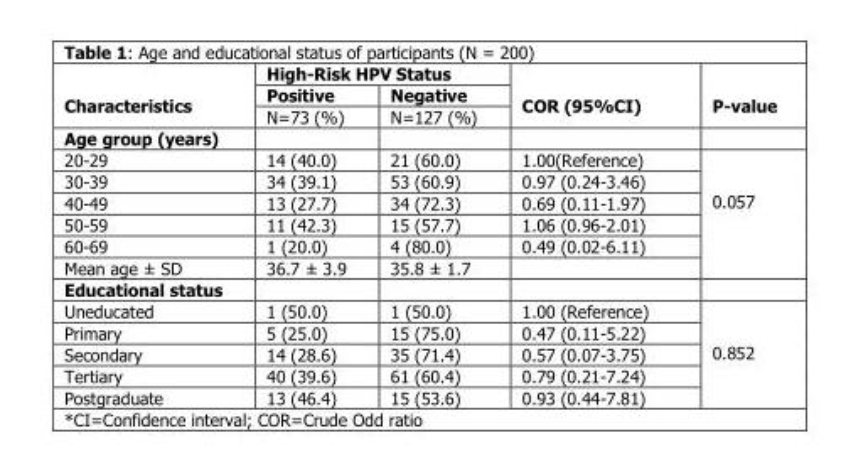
<table><thead><tr><td rowspan="3">Characteristics</td><td colspan="2">High-Risk HPV Status</td><td rowspan="3">COR (95%CI)</td><td rowspan="3">P-value</td></tr><tr><td rowspan="2">Positive N=73 (%)</td><td rowspan="2">Negative N=127 (%)</td></tr><tr></tr></thead><tbody><tr><td colspan="5">Age group (years)</td></tr><tr><td>20-29</td><td>14 (40.0)</td><td>21 (60.0)</td><td>1.00(Reference)</td><td rowspan="6">0.057</td></tr><tr><td>30-39</td><td>34 (39.1)</td><td>53 (60.9)</td><td>0.97 (0.24-3.46)</td></tr><tr><td>40-49</td><td>13 (27.7)</td><td>34 (72.3)</td><td>0.69 (0.11-1.97)</td></tr><tr><td>50-59</td><td>11 (42.3)</td><td>15 (57.7)</td><td>1.06 (0.96-2.01)</td></tr><tr><td>60-69</td><td>1 (20.0)</td><td>4 (80.0)</td><td>0.49 (0.02-6.11)</td></tr><tr><td>Mean age ± SD</td><td>36.7 ± 3.9</td><td>35.8 ± 1.7</td><td></td></tr><tr><td colspan="5">Educational status</td></tr><tr><td>Uneducated</td><td>1 (50.0)</td><td>1 (50.0)</td><td>1.00 (Reference)</td><td rowspan="5">0.852</td></tr><tr><td>Primary</td><td>5 (25.0)</td><td>15 (75.0)</td><td>0.47 (0.11-5.22)</td></tr><tr><td>Secondary</td><td>14 (28.6)</td><td>35 (71.4)</td><td>0.57 (0.07-3.75)</td></tr><tr><td>Tertiary</td><td>40 (39.6)</td><td>61 (60.4)</td><td>0.79 (0.21-7.24)</td></tr><tr><td>Postgraduate</td><td>13 (46.4)</td><td>15 (53.6)</td><td>0.93 (0.44-7.81)</td></tr></tbody></table>